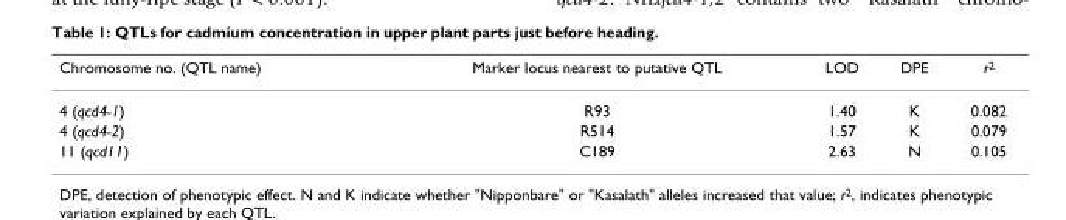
<table><thead><tr><td>Chromosome no. (QTL name)</td><td>Marker locus nearest to putative QTL</td><td>LOD</td><td>DPE</td><td>r<sup>2</sup></td></tr></thead><tbody><tr><td>4 (qcd4-1)</td><td>R93</td><td>1.40</td><td>K</td><td>0.082</td></tr><tr><td>4 (qcd4-2)</td><td>R514</td><td>1.57</td><td>K</td><td>0.079</td></tr><tr><td>11 (qcd11)</td><td>C189</td><td>2.63</td><td>N</td><td>0.105</td></tr></tbody></table>